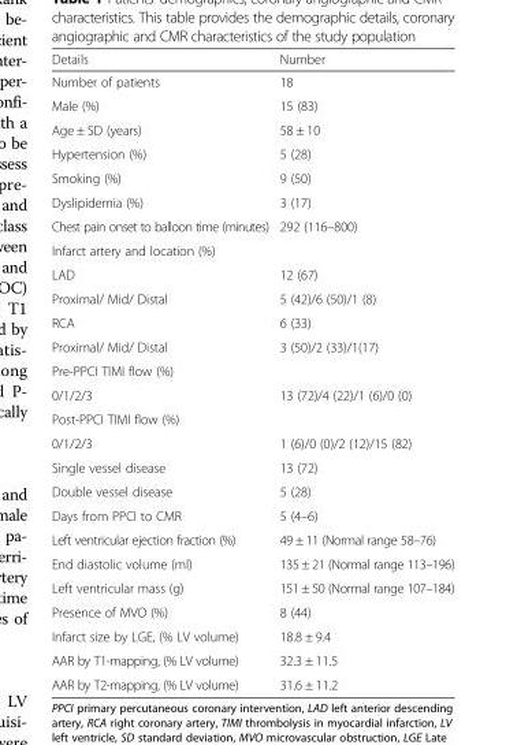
<table><thead><tr><td>Details</td><td>Number</td></tr></thead><tbody><tr><td>Number of patients</td><td>18</td></tr><tr><td>Male (%)</td><td>15 (83)</td></tr><tr><td>Age ± SD (years)</td><td>58 ± 10</td></tr><tr><td>Hypertension (%)</td><td>5 (28)</td></tr><tr><td>Smoking (%)</td><td>9 (50)</td></tr><tr><td>Dyslipidemia (%)</td><td>3 (17)</td></tr><tr><td>Chest pain onset to balloon time (minutes)</td><td>292 (116–800)</td></tr><tr><td colspan="2">Infarct artery and location (%)</td></tr><tr><td>LAD</td><td>12 (67)</td></tr><tr><td>Proximal/ Mid/ Distal</td><td>5 (42)/6 (50)/1 (8)</td></tr><tr><td>RCA</td><td>6 (33)</td></tr><tr><td>Proximal/ Mid/ Distal</td><td>3 (50)/2 (33)/1(17)</td></tr><tr><td colspan="2">Pre-PPCI TIMI flow (%)</td></tr><tr><td>0/1/2/3</td><td>13 (72)/4 (22)/1 (6)/0 (0)</td></tr><tr><td colspan="2">Post-PPCI TIMI flow (%)</td></tr><tr><td>0/1/2/3</td><td>1 (6)/0 (0)/2 (12)/15 (82)</td></tr><tr><td>Single vessel disease</td><td>13 (72)</td></tr><tr><td>Double vessel disease</td><td>5 (28)</td></tr><tr><td>Days from PPCI to CMR</td><td>5 (4–6)</td></tr><tr><td>Left ventricular ejection fraction (%)</td><td>49 ± 11 (Normal range 58–76)</td></tr><tr><td>End diastolic volume (ml)</td><td>135 ± 21 (Normal range 113–196)</td></tr><tr><td>Left ventricular mass (g)</td><td>151 ± 50 (Normal range 107–184)</td></tr><tr><td>Presence of MVO (%)</td><td>8 (44)</td></tr><tr><td>Infarct size by LGE, (% LV volume)</td><td>18.8 ± 9.4</td></tr><tr><td>AAR by T1-mapping, (% LV volume)</td><td>32.3 ± 11.5</td></tr><tr><td>AAR by T2-mapping, (% LV volume)</td><td>31.6 ± 11.2</td></tr></tbody></table>